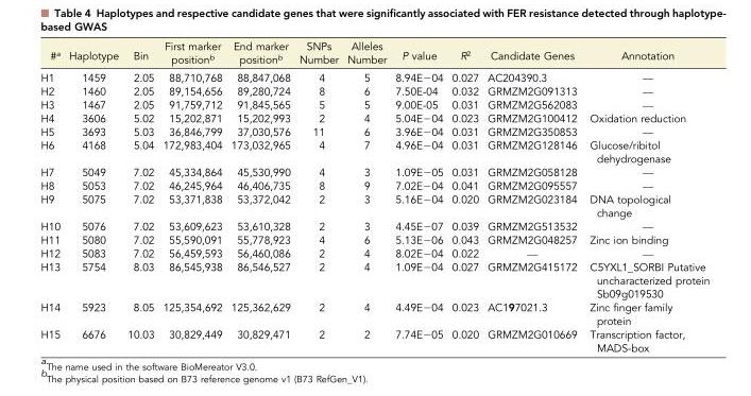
<table><thead><tr><td>#<sup>a</sup></td><td>Haplotype</td><td>Bin</td><td>First marker position<sup>b</sup></td><td>End marker position<sup>b</sup></td><td>SNPs Number</td><td>Alleles Number</td><td>P value</td><td>R<sup>2</sup></td><td>Candidate Genes</td><td>Annotation</td></tr></thead><tbody><tr><td>H1</td><td>1459</td><td>2.05</td><td>88,710,768</td><td>88,847,068</td><td>4</td><td>5</td><td>8.94E−04</td><td>0.027</td><td>AC204390.3</td><td>—</td></tr><tr><td>H2</td><td>1460</td><td>2.05</td><td>89,154,656</td><td>89,280,724</td><td>8</td><td>6</td><td>7.50E-04</td><td>0.032</td><td>GRMZM2G091313</td><td>—</td></tr><tr><td>H3</td><td>1467</td><td>2.05</td><td>91,759,712</td><td>91,845,565</td><td>5</td><td>5</td><td>9.00E-05</td><td>0.031</td><td>GRMZM2G562083</td><td>—</td></tr><tr><td>H4</td><td>3606</td><td>5.02</td><td>15,202,871</td><td>15,202,993</td><td>2</td><td>4</td><td>5.04E−04</td><td>0.023</td><td>GRMZM2G100412</td><td>Oxidation reduction</td></tr><tr><td>H5</td><td>3693</td><td>5.03</td><td>36,846,799</td><td>37,030,576</td><td>11</td><td>6</td><td>3.96E−04</td><td>0.031</td><td>GRMZM2G350853</td><td>—</td></tr><tr><td>H6</td><td>4168</td><td>5.04</td><td>172,983,404</td><td>173,032,965</td><td>4</td><td>7</td><td>4.96E−04</td><td>0.031</td><td>GRMZM2G128146</td><td>Glucose/ribitol dehydrogenase</td></tr><tr><td>H7</td><td>5049</td><td>7.02</td><td>45,334,864</td><td>45,530,990</td><td>4</td><td>3</td><td>1.09E−05</td><td>0.031</td><td>GRMZM2G058128</td><td>—</td></tr><tr><td>H8</td><td>5053</td><td>7.02</td><td>46,245,964</td><td>46,406,735</td><td>8</td><td>9</td><td>7.02E−04</td><td>0.041</td><td>GRMZM2G095557</td><td>—</td></tr><tr><td>H9</td><td>5075</td><td>7.02</td><td>53,371,838</td><td>53,372,042</td><td>2</td><td>3</td><td>5.16E−04</td><td>0.020</td><td>GRMZM2G023184</td><td>DNA topological change</td></tr><tr><td>H10</td><td>5076</td><td>7.02</td><td>53,609,623</td><td>53,610,328</td><td>2</td><td>3</td><td>4.45E−07</td><td>0.039</td><td>GRMZM2G513532</td><td>—</td></tr><tr><td>H11</td><td>5080</td><td>7.02</td><td>55,590,091</td><td>55,778,923</td><td>4</td><td>6</td><td>5.13E−06</td><td>0.043</td><td>GRMZM2G048257</td><td>Zinc ion binding</td></tr><tr><td>H12</td><td>5083</td><td>7.02</td><td>56,459,593</td><td>56,460,086</td><td>2</td><td>4</td><td>8.02E−04</td><td>0.022</td><td>—</td><td>—</td></tr><tr><td>H13</td><td>5754</td><td>8.03</td><td>86,545,938</td><td>86,546,527</td><td>2</td><td>4</td><td>1.09E−04</td><td>0.027</td><td>GRMZM2G415172</td><td>C5YXL1_SORBI Putative uncharacterized protein Sb09g019530</td></tr><tr><td>H14</td><td>5923</td><td>8.05</td><td>125,354,692</td><td>125,362,629</td><td>2</td><td>4</td><td>4.49E−04</td><td>0.023</td><td>AC197021.3</td><td>Zinc finger family protein</td></tr><tr><td>H15</td><td>6676</td><td>10.03</td><td>30,829,449</td><td>30,829,471</td><td>2</td><td>2</td><td>7.74E−05</td><td>0.020</td><td>GRMZM2G010669</td><td>Transcription factor, MADS-box</td></tr></tbody></table>